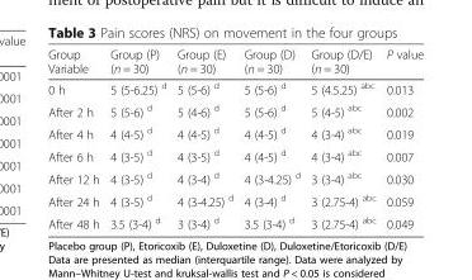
<table><thead><tr><td>Group Variable</td><td>Group (P) (n = 30)</td><td>Group (E) (n = 30)</td><td>Group (D) (n = 30)</td><td>Group (D/E) (n = 30)</td><td>P value</td></tr></thead><tbody><tr><td>0 h</td><td>5 (5-6.25) <sup>d</sup></td><td>5 (5-6) <sup>d</sup></td><td>5 (5-6) <sup>d</sup></td><td>5 (4.5.25) <sup>abc</sup></td><td>0.013</td></tr><tr><td>After 2 h</td><td>5 (5-6) <sup>d</sup></td><td>5 (4-6) <sup>d</sup></td><td>5 (5-6) <sup>d</sup></td><td>5 (4-5) <sup>abc</sup></td><td>0.002</td></tr><tr><td>After 4 h</td><td>4 (4-5) <sup>d</sup></td><td>4 (4-5) <sup>d</sup></td><td>4 (4-5) <sup>d</sup></td><td>4 (3-4) <sup>abc</sup></td><td>0.019</td></tr><tr><td>After 6 h</td><td>4 (3-5) <sup>d</sup></td><td>4 (3-5) <sup>d</sup></td><td>4 (4-5) <sup>d</sup></td><td>4 (3-4) <sup>abc</sup></td><td>0.007</td></tr><tr><td>After 12 h</td><td>4 (3-5) <sup>d</sup></td><td>4 (3-4) <sup>d</sup></td><td>4 (3-4.25) <sup>d</sup></td><td>3 (3-4) <sup>abc</sup></td><td>0.030</td></tr><tr><td>After 24 h</td><td>4 (3-5) <sup>d</sup></td><td>4 (3-4.25) <sup>d</sup></td><td>4 (3-4) <sup>d</sup></td><td>3 (2.75-4) <sup>abc</sup></td><td>0.059</td></tr><tr><td>After 48 h</td><td>3.5 (3-4) <sup>d</sup></td><td>3 (3-4) <sup>d</sup></td><td>3.5 (3-4) <sup>d</sup></td><td>3 (2.75-4) <sup>abc</sup></td><td>0.049</td></tr></tbody></table>